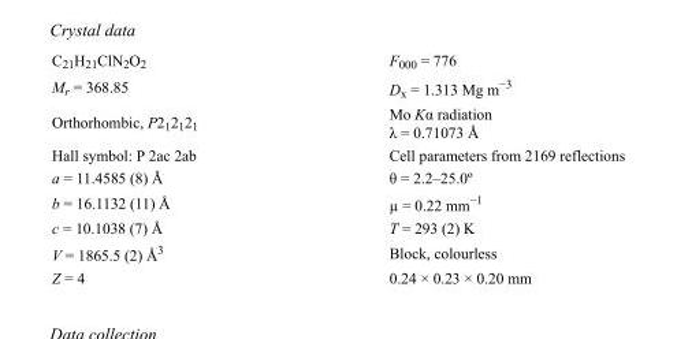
<table><tbody><tr><td>C<sub>21</sub>H<sub>21</sub>ClN<sub>2</sub>O<sub>2</sub></td><td>F<sub>000</sub> = 776</td></tr><tr><td>M<sub>r</sub> = 368.85</td><td>D<sub>x</sub> = 1.313 Mg m<sup>−3</sup></td></tr><tr><td>Orthorhombic, P2<sub>1</sub>2<sub>1</sub>2<sub>1</sub></td><td>Mo Kα radiation λ = 0.71073 Å</td></tr><tr><td>Hall symbol: P 2ac 2ab</td><td>Cell parameters from 2169 reflections</td></tr><tr><td>a = 11.4585 (8) Å</td><td>θ = 2.2–25.0º</td></tr><tr><td>b = 16.1132 (11) Å</td><td>µ = 0.22 mm<sup>−1</sup></td></tr><tr><td>c = 10.1038 (7) Å</td><td>T = 293 (2) K</td></tr><tr><td>V = 1865.5 (2) Å<sup>3</sup></td><td>Block, colourless</td></tr><tr><td>Z = 4</td><td>0.24 × 0.23 × 0.20 mm</td></tr></tbody></table>